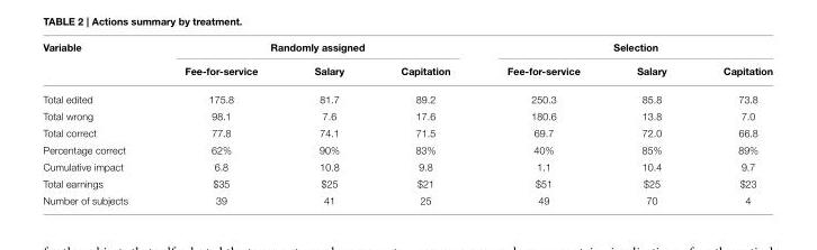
<table><thead><tr><td rowspan="2">Variable</td><td colspan="3">Randomly assigned</td><td colspan="3">Selection</td></tr><tr><td>Fee-for-service</td><td>Salary</td><td>Capitation</td><td>Fee-for-service</td><td>Salary</td><td>Capitation</td></tr></thead><tbody><tr><td>Total edited</td><td>175.8</td><td>81.7</td><td>89.2</td><td>250.3</td><td>85.8</td><td>73.8</td></tr><tr><td>Total wrong</td><td>98.1</td><td>7.6</td><td>17.6</td><td>180.6</td><td>13.8</td><td>7.0</td></tr><tr><td>Total correct</td><td>77.8</td><td>74.1</td><td>71.5</td><td>69.7</td><td>72.0</td><td>66.8</td></tr><tr><td>Percentage correct</td><td>62%</td><td>90%</td><td>83%</td><td>40%</td><td>85%</td><td>89%</td></tr><tr><td>Cumulative impact</td><td>6.8</td><td>10.8</td><td>9.8</td><td>1.1</td><td>10.4</td><td>9.7</td></tr><tr><td>Total earnings</td><td>$35</td><td>$25</td><td>$21</td><td>$51</td><td>$25</td><td>$23</td></tr><tr><td>Number of subjects</td><td>39</td><td>41</td><td>25</td><td>49</td><td>70</td><td>4</td></tr></tbody></table>